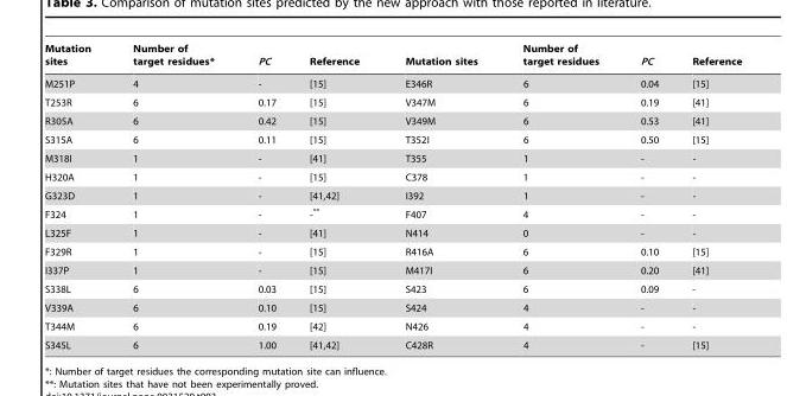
<table><thead><tr><td>Mutation sites</td><td>Number of target residues*</td><td>PC</td><td>Reference</td><td>Mutation sites</td><td>Number of target residues</td><td>PC</td><td>Reference</td></tr></thead><tbody><tr><td>M251P</td><td>4</td><td>-</td><td>[15]</td><td>E346R</td><td>6</td><td>0.04</td><td>[15]</td></tr><tr><td>T253R</td><td>6</td><td>0.17</td><td>[15]</td><td>V347M</td><td>6</td><td>0.19</td><td>[41]</td></tr><tr><td>R305A</td><td>6</td><td>0.42</td><td>[15]</td><td>V349M</td><td>6</td><td>0.53</td><td>[41]</td></tr><tr><td>S315A</td><td>6</td><td>0.11</td><td>[15]</td><td>T352I</td><td>6</td><td>0.50</td><td>[15]</td></tr><tr><td>M318I</td><td>1</td><td>-</td><td>[41]</td><td>T355</td><td>1</td><td>-</td><td>-</td></tr><tr><td>H320A</td><td>1</td><td>-</td><td>[15]</td><td>C378</td><td>1</td><td>-</td><td>-</td></tr><tr><td>G323D</td><td>1</td><td>-</td><td>[41,42]</td><td>I392</td><td>1</td><td>-</td><td>-</td></tr><tr><td>F324</td><td>1</td><td>-</td><td>-**</td><td>F407</td><td>4</td><td>-</td><td>-</td></tr><tr><td>L325F</td><td>1</td><td>-</td><td>[41]</td><td>N414</td><td>0</td><td>-</td><td>-</td></tr><tr><td>F329R</td><td>1</td><td>-</td><td>[15]</td><td>R416A</td><td>6</td><td>0.10</td><td>[15]</td></tr><tr><td>I337P</td><td>1</td><td>-</td><td>[15]</td><td>M417I</td><td>6</td><td>0.20</td><td>[41]</td></tr><tr><td>S338L</td><td>6</td><td>0.03</td><td>[15]</td><td>S423</td><td>6</td><td>0.09</td><td>-</td></tr><tr><td>V339A</td><td>6</td><td>0.10</td><td>[15]</td><td>S424</td><td>4</td><td>-</td><td>-</td></tr><tr><td>T344M</td><td>6</td><td>0.19</td><td>[42]</td><td>N426</td><td>4</td><td>-</td><td>-</td></tr><tr><td>S345L</td><td>6</td><td>1.00</td><td>[41,42]</td><td>C428R</td><td>4</td><td>-</td><td>[15]</td></tr></tbody></table>